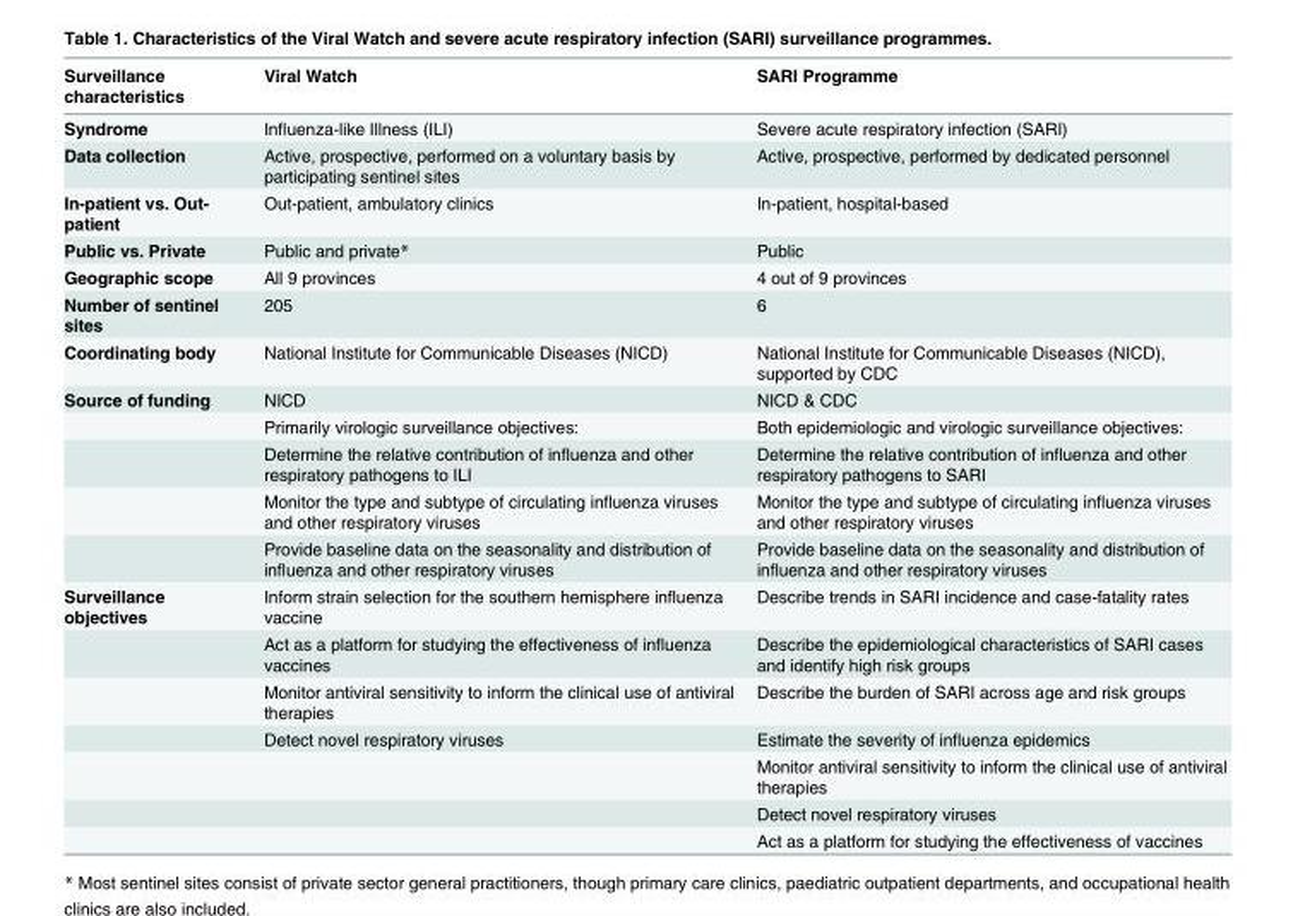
<table><thead><tr><td>Surveillance characteristics</td><td>Viral Watch</td><td>SARI Programme</td></tr></thead><tbody><tr><td>Syndrome</td><td>Influenza-like Illness (ILI)</td><td>Severe acute respiratory infection (SARI)</td></tr><tr><td>Data collection</td><td>Active, prospective, performed on a voluntary basis by participating sentinel sites</td><td>Active, prospective, performed by dedicated personnel</td></tr><tr><td>In-patient vs. Out- patient</td><td>Out-patient, ambulatory clinics</td><td>In-patient, hospital-based</td></tr><tr><td>Public vs. Private</td><td>Public and private*</td><td>Public</td></tr><tr><td>Geographic scope</td><td>All 9 provinces</td><td>4 out of 9 provinces</td></tr><tr><td>Number of sentinel sites</td><td>205</td><td>6</td></tr><tr><td>Coordinating body</td><td>National Institute for Communicable Diseases (NICD)</td><td>National Institute for Communicable Diseases (NICD), supported by CDC</td></tr><tr><td rowspan="5">Source of funding</td><td>NICD</td><td>NICD &amp; CDC</td></tr><tr><td>Primarily virologic surveillance objectives:</td><td>Both epidemiologic and virologic surveillance objectives:</td></tr><tr><td>Determine the relative contribution of influenza and other respiratory pathogens to ILI</td><td>Determine the relative contribution of influenza and other respiratory pathogens to SARI</td></tr><tr><td>Monitor the type and subtype of circulating influenza viruses and other respiratory viruses</td><td>Monitor the type and subtype of circulating influenza viruses and other respiratory viruses</td></tr><tr><td>Provide baseline data on the seasonality and distribution of influenza and other respiratory viruses</td><td>Provide baseline data on the seasonality and distribution of influenza and other respiratory viruses</td></tr><tr><td rowspan="7">Surveillance objectives</td><td>Inform strain selection for the southern hemisphere influenza vaccine</td><td>Describe trends in SARI incidence and case-fatality rates</td></tr><tr><td>Act as a platform for studying the effectiveness of influenza vaccines</td><td>Describe the epidemiological characteristics of SARI cases and identify high risk groups</td></tr><tr><td>Monitor antiviral sensitivity to inform the clinical use of antiviral therapies</td><td>Describe the burden of SARI across age and risk groups</td></tr><tr><td>Detect novel respiratory viruses</td><td>Estimate the severity of influenza epidemics</td></tr><tr><td></td><td>Monitor antiviral sensitivity to inform the clinical use of antiviral therapies</td></tr><tr><td></td><td>Detect novel respiratory viruses</td></tr><tr><td></td><td>Act as a platform for studying the effectiveness of vaccines</td></tr></tbody></table>